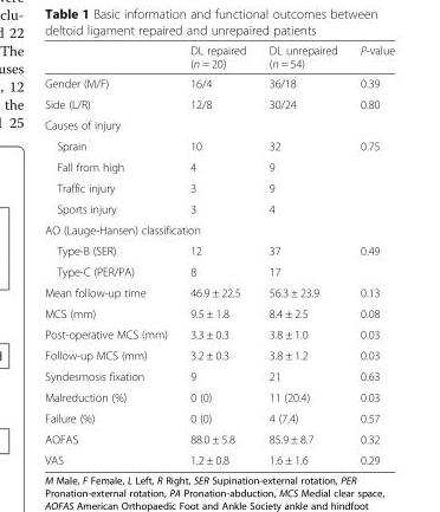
<table><thead><tr><td></td><td>DL repaired (n = 20)</td><td>DL unrepaired (n = 54)</td><td>P-value</td></tr></thead><tbody><tr><td>Gender (M/F)</td><td>16/4</td><td>36/18</td><td>0.39</td></tr><tr><td>Side (L/R)</td><td>12/8</td><td>30/24</td><td>0.80</td></tr><tr><td colspan="4">Causes of injury</td></tr><tr><td>Sprain</td><td>10</td><td>32</td><td rowspan="4">0.75</td></tr><tr><td>Fall from high</td><td>4</td><td>9</td></tr><tr><td>Traffic injury</td><td>3</td><td>9</td></tr><tr><td>Sports injury</td><td>3</td><td>4</td></tr><tr><td colspan="4">AO (Lauge-Hansen) classification</td></tr><tr><td>Type-B (SER)</td><td>12</td><td>37</td><td rowspan="2">0.49</td></tr><tr><td>Type-C (PER/PA)</td><td>8</td><td>17</td></tr><tr><td>Mean follow-up time</td><td>46.9 ± 22.5</td><td>56.3 ± 23.9</td><td>0.13</td></tr><tr><td>MCS (mm)</td><td>9.5 ± 1.8</td><td>8.4 ± 2.5</td><td>0.08</td></tr><tr><td>Post-operative MCS (mm)</td><td>3.3 ± 0.3</td><td>3.8 ± 1.0</td><td>0.03</td></tr><tr><td>Follow-up MCS (mm)</td><td>3.2 ± 0.3</td><td>3.8 ± 1.2</td><td>0.03</td></tr><tr><td>Syndesmosis fixation</td><td>9</td><td>21</td><td>0.63</td></tr><tr><td>Malreduction (%)</td><td>0 (0)</td><td>11 (20.4)</td><td>0.03</td></tr><tr><td>Failure (%)</td><td>0 (0)</td><td>4 (7.4)</td><td>0.57</td></tr><tr><td>AOFAS</td><td>88.0 ± 5.8</td><td>85.9 ± 8.7</td><td>0.32</td></tr><tr><td>VAS</td><td>1.2 ± 0.8</td><td>1.6 ± 1.6</td><td>0.29</td></tr></tbody></table>